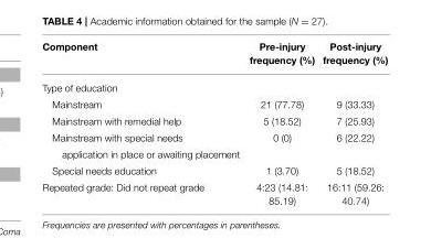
<table><thead><tr><td>Component</td><td>Pre-injury frequency (%)</td><td>Post-injury frequency (%)</td></tr></thead><tbody><tr><td colspan="3">Type of education</td></tr><tr><td>Mainstream</td><td>21 (77.78)</td><td>9 (33.33)</td></tr><tr><td>Mainstream with remedial help</td><td>5 (18.52)</td><td>7 (25.93)</td></tr><tr><td>Mainstream with special needs</td><td>0 (0)</td><td>6 (22.22)</td></tr><tr><td colspan="3">application in place or awaiting placement</td></tr><tr><td>Special needs education</td><td>1 (3.70)</td><td>5 (18.52)</td></tr><tr><td>Repeated grade: Did not repeat grade</td><td>4:23 (14.81: 85.19)</td><td>16:11 (59.26: 40.74)</td></tr></tbody></table>